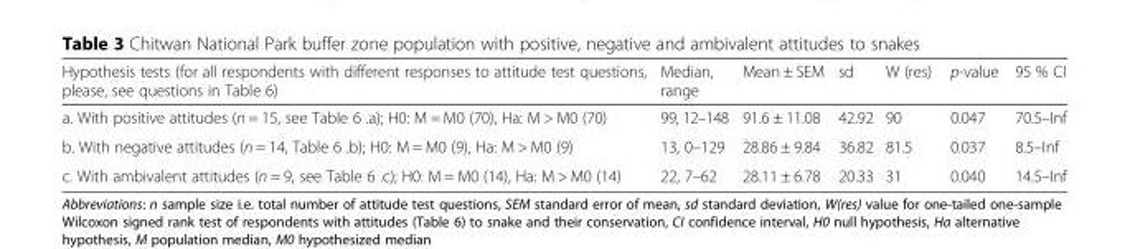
<table><thead><tr><td>Hypothesis tests (for all respondents with different responses to attitude test questions, please, see questions in Table 6)</td><td>Median, range</td><td>Mean ± SEM</td><td>sd</td><td>W (res)</td><td>p-value</td><td>95 % CI</td></tr></thead><tbody><tr><td>a. With positive attitudes (n = 15, see Table 6 .a); H0: M = M0 (70), Ha: M &gt; M0 (70)</td><td>99, 12–148</td><td>91.6 ± 11.08</td><td>42.92</td><td>90</td><td>0.047</td><td>70.5–Inf</td></tr><tr><td>b. With negative attitudes (n = 14, Table 6 .b); H0: M = M0 (9), Ha: M &gt; M0 (9)</td><td>13, 0–129</td><td>28.86 ± 9.84</td><td>36.82</td><td>81.5</td><td>0.037</td><td>8.5–Inf</td></tr><tr><td>c. With ambivalent attitudes (n = 9, see Table 6 .c); H0: M = M0 (14), Ha: M &gt; M0 (14)</td><td>22, 7–62</td><td>28.11 ± 6.78</td><td>20.33</td><td>31</td><td>0.040</td><td>14.5–Inf</td></tr></tbody></table>